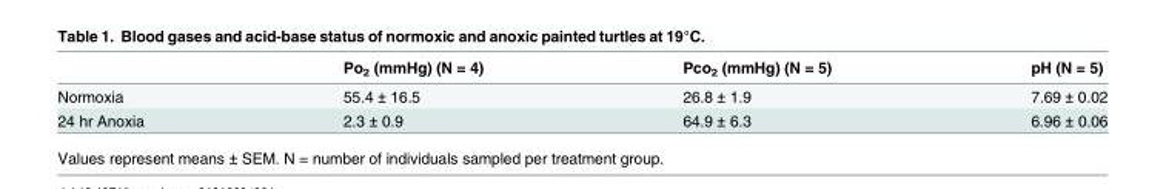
<table><thead><tr><td></td><td>Po<sub>2</sub> (mmHg) (N = 4)</td><td>Pco<sub>2</sub> (mmHg) (N = 5)</td><td>pH (N = 5)</td></tr></thead><tbody><tr><td>Normoxia</td><td>55.4 ± 16.5</td><td>26.8 ± 1.9</td><td>7.69 ± 0.02</td></tr><tr><td>24 hr Anoxia</td><td>2.3 ± 0.9</td><td>64.9 ± 6.3</td><td>6.96 ± 0.06</td></tr></tbody></table>